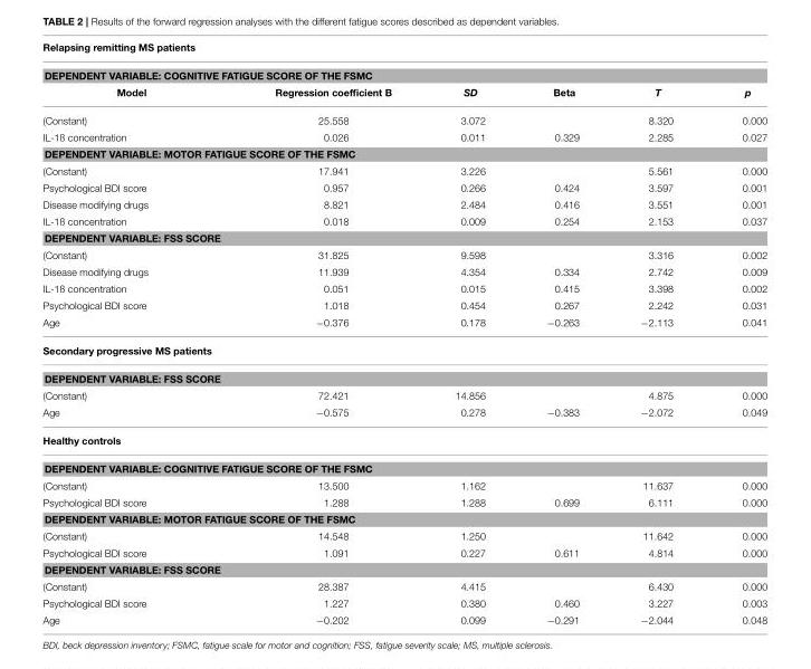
<table><thead><tr><td rowspan="2" colspan="6">Relapsing remitting MS patients DEPENDENT VARIABLE: COGNITIVE FATIGUE SCORE OF THE FSMC</td></tr><tr></tr><tr><td>Model</td><td>Regression coefficient B</td><td>SD</td><td>Beta</td><td>T</td><td>p</td></tr></thead><tbody><tr><td>(Constant)</td><td>25.558</td><td>3.072</td><td></td><td>8.320</td><td>0.000</td></tr><tr><td>IL-1ß concentration</td><td>0.026</td><td>0.011</td><td>0.329</td><td>2.285</td><td>0.027</td></tr><tr><td colspan="6">DEPENDENT VARIABLE: MOTOR FATIGUE SCORE OF THE FSMC</td></tr><tr><td>(Constant)</td><td>17.941</td><td>3.226</td><td></td><td>5.561</td><td>0.000</td></tr><tr><td>Psychological BDI score</td><td>0.957</td><td>0.266</td><td>0.424</td><td>3.597</td><td>0.001</td></tr><tr><td>Disease modifying drugs</td><td>8.821</td><td>2.484</td><td>0.416</td><td>3.551</td><td>0.001</td></tr><tr><td>IL-1ß concentration</td><td>0.018</td><td>0.009</td><td>0.254</td><td>2.153</td><td>0.037</td></tr><tr><td colspan="6">DEPENDENT VARIABLE: FSS SCORE</td></tr><tr><td>(Constant)</td><td>31.825</td><td>9.598</td><td></td><td>3.316</td><td>0.002</td></tr><tr><td>Disease modifying drugs</td><td>11.939</td><td>4.354</td><td>0.334</td><td>2.742</td><td>0.009</td></tr><tr><td>IL-1ß concentration</td><td>0.051</td><td>0.015</td><td>0.415</td><td>3.398</td><td>0.002</td></tr><tr><td>Psychological BDI score</td><td>1.018</td><td>0.454</td><td>0.267</td><td>2.242</td><td>0.031</td></tr><tr><td>Age</td><td>−0.376</td><td>0.178</td><td>−0.263</td><td>−2.113</td><td>0.041</td></tr><tr><td colspan="6">Secondary progressive MS patients</td></tr><tr><td colspan="6">DEPENDENT VARIABLE: FSS SCORE</td></tr><tr><td>(Constant)</td><td>72.421</td><td>14.856</td><td></td><td>4.875</td><td>0.000</td></tr><tr><td>Age</td><td>−0.575</td><td>0.278</td><td>−0.383</td><td>−2.072</td><td>0.049</td></tr><tr><td colspan="6">Healthy controls</td></tr><tr><td colspan="6">DEPENDENT VARIABLE: COGNITIVE FATIGUE SCORE OF THE FSMC</td></tr><tr><td>(Constant)</td><td>13.500</td><td>1.162</td><td></td><td>11.637</td><td>0.000</td></tr><tr><td>Psychological BDI score</td><td>1.288</td><td>1.288</td><td>0.699</td><td>6.111</td><td>0.000</td></tr><tr><td colspan="6">DEPENDENT VARIABLE: MOTOR FATIGUE SCORE OF THE FSMC</td></tr><tr><td>(Constant)</td><td>14.548</td><td>1.250</td><td></td><td>11.642</td><td>0.000</td></tr><tr><td>Psychological BDI score</td><td>1.091</td><td>0.227</td><td>0.611</td><td>4.814</td><td>0.000</td></tr><tr><td colspan="6">DEPENDENT VARIABLE: FSS SCORE</td></tr><tr><td>(Constant)</td><td>28.387</td><td>4.415</td><td></td><td>6.430</td><td>0.000</td></tr><tr><td>Psychological BDI score</td><td>1.227</td><td>0.380</td><td>0.460</td><td>3.227</td><td>0.003</td></tr><tr><td>Age</td><td>−0.202</td><td>0.099</td><td>−0.291</td><td>−2.044</td><td>0.048</td></tr></tbody></table>